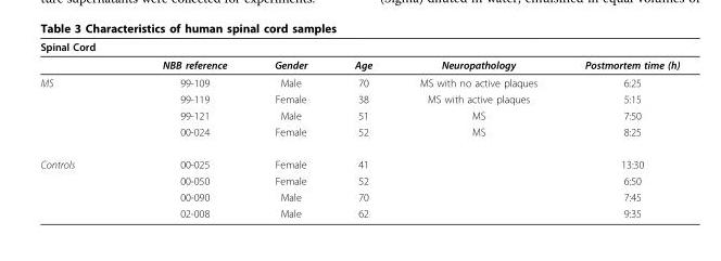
<table><thead><tr><td>Spinal Cord</td><td></td><td></td><td></td><td></td><td></td></tr></thead><tbody><tr><td></td><td>NBB reference</td><td>Gender</td><td>Age</td><td>Neuropathology</td><td>Postmortem time (h)</td></tr><tr><td rowspan="4">MS</td><td>99-109</td><td>Male</td><td>70</td><td>MS with no active plaques</td><td>6:25</td></tr><tr><td>99-119</td><td>Female</td><td>38</td><td>MS with active plaques</td><td>5:15</td></tr><tr><td>99-121</td><td>Male</td><td>51</td><td>MS</td><td>7:50</td></tr><tr><td>00-024</td><td>Female</td><td>52</td><td>MS</td><td>8:25</td></tr><tr><td rowspan="4">Controls</td><td>00-025</td><td>Female</td><td>41</td><td></td><td>13:30</td></tr><tr><td>00-050</td><td>Female</td><td>52</td><td></td><td>6:50</td></tr><tr><td>00-090</td><td>Male</td><td>70</td><td></td><td>7:45</td></tr><tr><td>02-008</td><td>Male</td><td>62</td><td></td><td>9:35</td></tr></tbody></table>